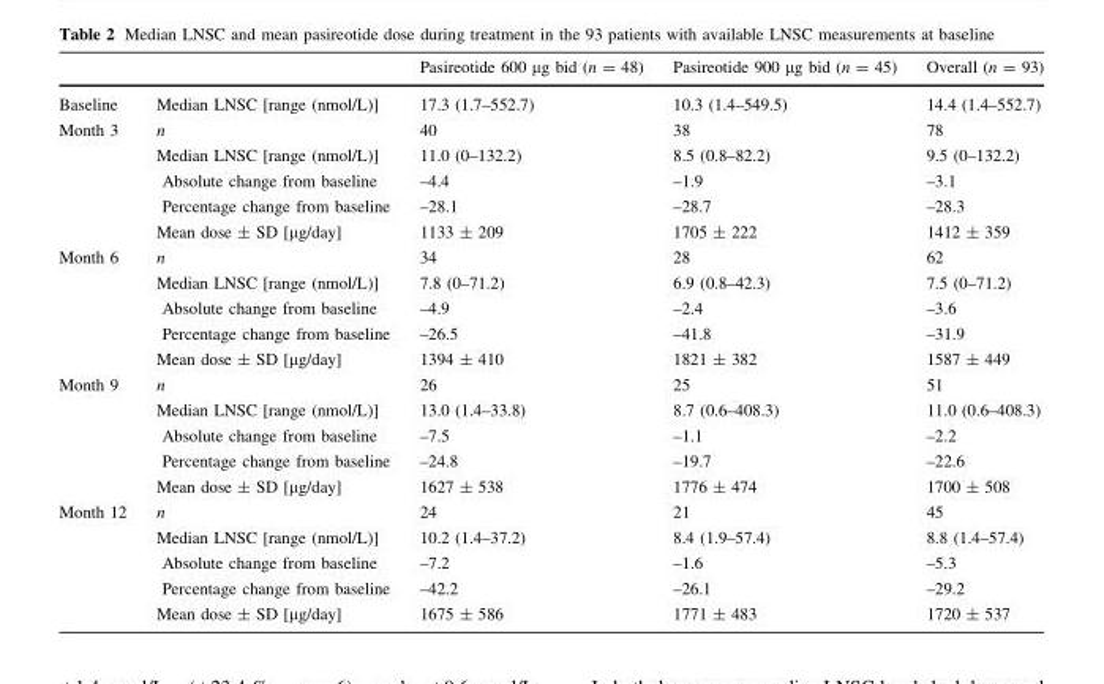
<table><thead><tr><td></td><td></td><td>Pasireotide 600 µg bid (n = 48)</td><td>Pasireotide 900 µg bid (n = 45)</td><td>Overall (n = 93)</td></tr></thead><tbody><tr><td>Baseline</td><td>Median LNSC [range (nmol/L)]</td><td>17.3 (1.7–552.7)</td><td>10.3 (1.4–549.5)</td><td>14.4 (1.4–552.7)</td></tr><tr><td rowspan="5">Month 3</td><td>n</td><td>40</td><td>38</td><td>78</td></tr><tr><td>Median LNSC [range (nmol/L)]</td><td>11.0 (0–132.2)</td><td>8.5 (0.8–82.2)</td><td>9.5 (0–132.2)</td></tr><tr><td>Absolute change from baseline</td><td>–4.4</td><td>–1.9</td><td>–3.1</td></tr><tr><td>Percentage change from baseline</td><td>–28.1</td><td>–28.7</td><td>–28.3</td></tr><tr><td>Mean dose ± SD [µg/day]</td><td>1133 ± 209</td><td>1705 ± 222</td><td>1412 ± 359</td></tr><tr><td rowspan="5">Month 6</td><td>n</td><td>34</td><td>28</td><td>62</td></tr><tr><td>Median LNSC [range (nmol/L)]</td><td>7.8 (0–71.2)</td><td>6.9 (0.8–42.3)</td><td>7.5 (0–71.2)</td></tr><tr><td>Absolute change from baseline</td><td>–4.9</td><td>–2.4</td><td>–3.6</td></tr><tr><td>Percentage change from baseline</td><td>–26.5</td><td>–41.8</td><td>–31.9</td></tr><tr><td>Mean dose ± SD [µg/day]</td><td>1394 ± 410</td><td>1821 ± 382</td><td>1587 ± 449</td></tr><tr><td rowspan="5">Month 9</td><td>n</td><td>26</td><td>25</td><td>51</td></tr><tr><td>Median LNSC [range (nmol/L)]</td><td>13.0 (1.4–33.8)</td><td>8.7 (0.6–408.3)</td><td>11.0 (0.6–408.3)</td></tr><tr><td>Absolute change from baseline</td><td>–7.5</td><td>–1.1</td><td>–2.2</td></tr><tr><td>Percentage change from baseline</td><td>–24.8</td><td>–19.7</td><td>–22.6</td></tr><tr><td>Mean dose ± SD [µg/day]</td><td>1627 ± 538</td><td>1776 ± 474</td><td>1700 ± 508</td></tr><tr><td rowspan="5">Month 12</td><td>n</td><td>24</td><td>21</td><td>45</td></tr><tr><td>Median LNSC [range (nmol/L)]</td><td>10.2 (1.4–37.2)</td><td>8.4 (1.9–57.4)</td><td>8.8 (1.4–57.4)</td></tr><tr><td>Absolute change from baseline</td><td>–7.2</td><td>–1.6</td><td>–5.3</td></tr><tr><td>Percentage change from baseline</td><td>–42.2</td><td>–26.1</td><td>–29.2</td></tr><tr><td>Mean dose ± SD [µg/day]</td><td>1675 ± 586</td><td>1771 ± 483</td><td>1720 ± 537</td></tr></tbody></table>